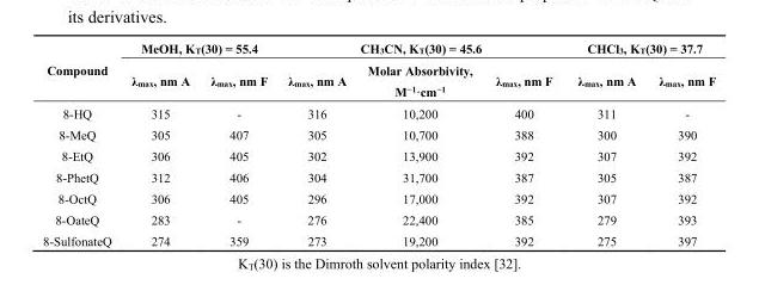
<table><thead><tr><td rowspan="2">Compound</td><td colspan="2">MeOH, K<sub>T</sub>(30) = 55.4</td><td colspan="3">CH<sub>3</sub>CN, K<sub>T</sub>(30) = 45.6</td><td colspan="2">CHCl<sub>3</sub>, K<sub>T</sub>(30) = 37.7</td></tr><tr><td>λ<sub>max</sub>, nm A</td><td>λ<sub>max</sub>, nm F</td><td>λ<sub>max</sub>, nm A</td><td>Molar Absorbivity, M<sup>−1</sup>·cm<sup>−1</sup></td><td>λ<sub>max</sub>, nm F</td><td>λ<sub>max</sub>, nm A</td><td>λ<sub>max</sub>, nm F</td></tr></thead><tbody><tr><td>8-HQ</td><td>315</td><td>-</td><td>316</td><td>10,200</td><td>400</td><td>311</td><td>-</td></tr><tr><td>8-MeQ</td><td>305</td><td>407</td><td>305</td><td>10,700</td><td>388</td><td>300</td><td>390</td></tr><tr><td>8-EtQ</td><td>306</td><td>405</td><td>302</td><td>13,900</td><td>392</td><td>307</td><td>392</td></tr><tr><td>8-PhetQ</td><td>312</td><td>406</td><td>304</td><td>31,700</td><td>387</td><td>305</td><td>387</td></tr><tr><td>8-OctQ</td><td>306</td><td>405</td><td>296</td><td>17,000</td><td>392</td><td>307</td><td>392</td></tr><tr><td>8-OateQ</td><td>283</td><td>-</td><td>276</td><td>22,400</td><td>385</td><td>279</td><td>393</td></tr><tr><td>8-SulfonateQ</td><td>274</td><td>359</td><td>273</td><td>19,200</td><td>392</td><td>275</td><td>397</td></tr></tbody></table>